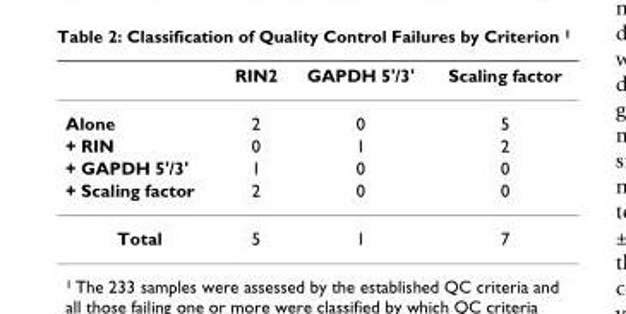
<table><thead><tr><td></td><td>RIN2</td><td>GAPDH 5&#x27;/3&#x27;</td><td>Scaling factor</td></tr></thead><tbody><tr><td>Alone</td><td>2</td><td>0</td><td>5</td></tr><tr><td>+ RIN</td><td>0</td><td>1</td><td>2</td></tr><tr><td>+ GAPDH 5&#x27;/3&#x27;</td><td>1</td><td>0</td><td>0</td></tr><tr><td>+ Scaling factor</td><td>2</td><td>0</td><td>0</td></tr><tr><td>Total</td><td>5</td><td>1</td><td>7</td></tr></tbody></table>